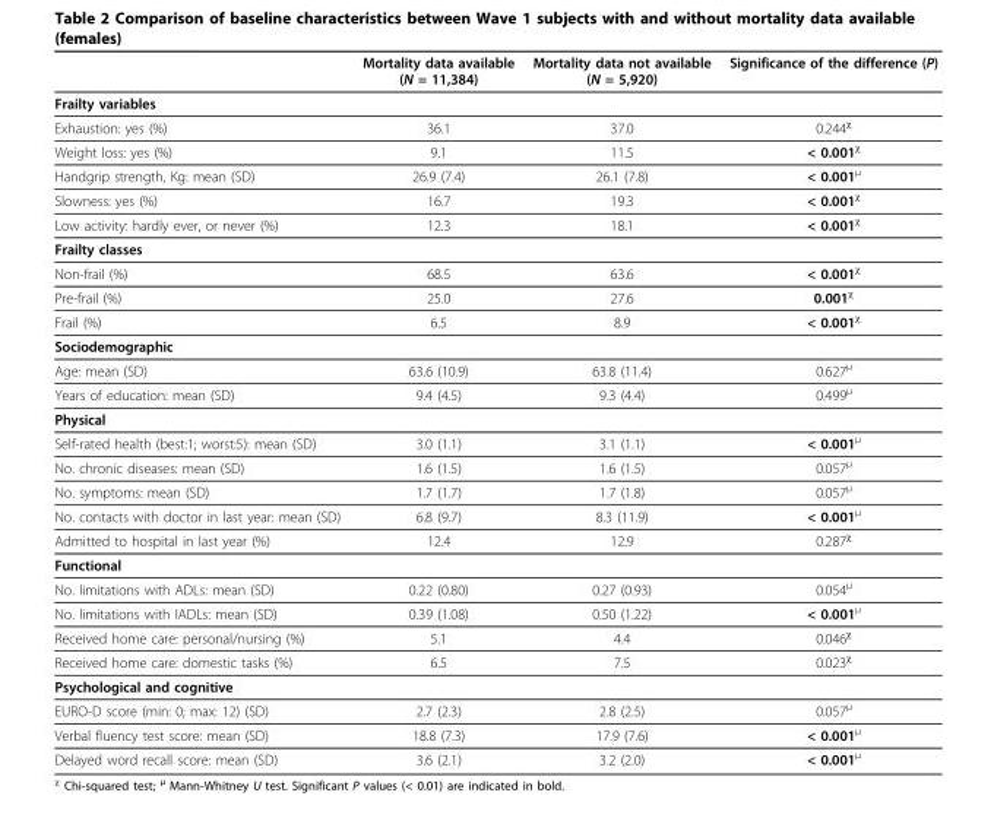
<table><thead><tr><td></td><td>Mortality data available (N = 11,384)</td><td>Mortality data not available (N = 5,920)</td><td>Significance of the difference (P)</td></tr></thead><tbody><tr><td colspan="4">Frailty variables</td></tr><tr><td>Exhaustion: yes (%)</td><td>36.1</td><td>37.0</td><td>0.244<sup>χ</sup></td></tr><tr><td>Weight loss: yes (%)</td><td>9.1</td><td>11.5</td><td>&lt; 0.001<sup>χ</sup></td></tr><tr><td>Handgrip strength, Kg: mean (SD)</td><td>26.9 (7.4)</td><td>26.1 (7.8)</td><td>&lt; 0.001<sup>μ</sup></td></tr><tr><td>Slowness: yes (%)</td><td>16.7</td><td>19.3</td><td>&lt; 0.001<sup>χ</sup></td></tr><tr><td>Low activity: hardly ever, or never (%)</td><td>12.3</td><td>18.1</td><td>&lt; 0.001<sup>χ</sup></td></tr><tr><td colspan="4">Frailty classes</td></tr><tr><td>Non-frail (%)</td><td>68.5</td><td>63.6</td><td>&lt; 0.001<sup>χ</sup></td></tr><tr><td>Pre-frail (%)</td><td>25.0</td><td>27.6</td><td>0.001<sup>χ</sup></td></tr><tr><td>Frail (%)</td><td>6.5</td><td>8.9</td><td>&lt; 0.001<sup>χ</sup></td></tr><tr><td colspan="4">Sociodemographic</td></tr><tr><td>Age: mean (SD)</td><td>63.6 (10.9)</td><td>63.8 (11.4)</td><td>0.627<sup>μ</sup></td></tr><tr><td>Years of education: mean (SD)</td><td>9.4 (4.5)</td><td>9.3 (4.4)</td><td>0.499<sup>μ</sup></td></tr><tr><td colspan="4">Physical</td></tr><tr><td>Self-rated health (best:1; worst:5): mean (SD)</td><td>3.0 (1.1)</td><td>3.1 (1.1)</td><td>&lt; 0.001<sup>μ</sup></td></tr><tr><td>No. chronic diseases: mean (SD)</td><td>1.6 (1.5)</td><td>1.6 (1.5)</td><td>0.057<sup>μ</sup></td></tr><tr><td>No. symptoms: mean (SD)</td><td>1.7 (1.7)</td><td>1.7 (1.8)</td><td>0.057<sup>μ</sup></td></tr><tr><td>No. contacts with doctor in last year: mean (SD)</td><td>6.8 (9.7)</td><td>8.3 (11.9)</td><td>&lt; 0.001<sup>μ</sup></td></tr><tr><td>Admitted to hospital in last year (%)</td><td>12.4</td><td>12.9</td><td>0.287<sup>χ</sup></td></tr><tr><td colspan="4">Functional</td></tr><tr><td>No. limitations with ADLs: mean (SD)</td><td>0.22 (0.80)</td><td>0.27 (0.93)</td><td>0.054<sup>μ</sup></td></tr><tr><td>No. limitations with IADLs: mean (SD)</td><td>0.39 (1.08)</td><td>0.50 (1.22)</td><td>&lt; 0.001<sup>μ</sup></td></tr><tr><td>Received home care: personal/nursing (%)</td><td>5.1</td><td>4.4</td><td>0.046<sup>χ</sup></td></tr><tr><td>Received home care: domestic tasks (%)</td><td>6.5</td><td>7.5</td><td>0.023<sup>χ</sup></td></tr><tr><td colspan="4">Psychological and cognitive</td></tr><tr><td>EURO-D score (min: 0; max: 12) (SD)</td><td>2.7 (2.3)</td><td>2.8 (2.5)</td><td>0.057<sup>μ</sup></td></tr><tr><td>Verbal fluency test score: mean (SD)</td><td>18.8 (7.3)</td><td>17.9 (7.6)</td><td>&lt; 0.001<sup>μ</sup></td></tr><tr><td>Delayed word recall score: mean (SD)</td><td>3.6 (2.1)</td><td>3.2 (2.0)</td><td>&lt; 0.001<sup>μ</sup></td></tr></tbody></table>